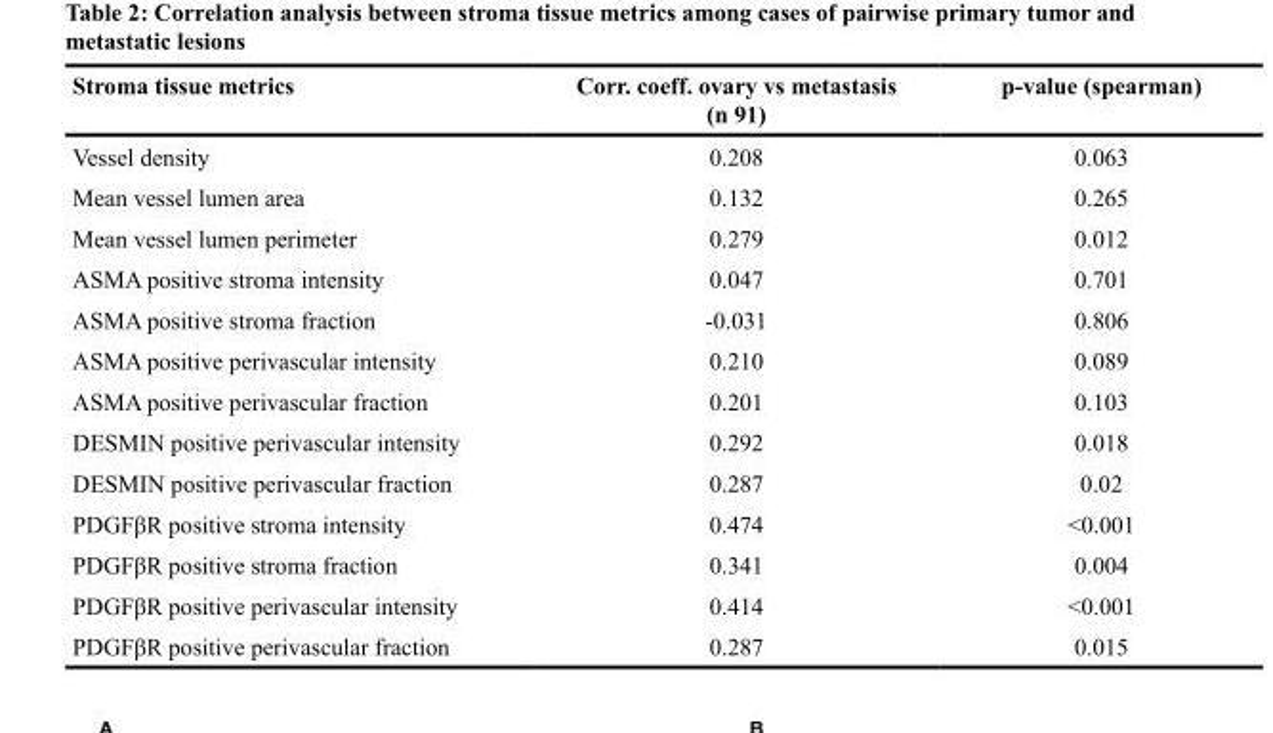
<table><thead><tr><td>Stroma tissue metrics</td><td>Corr. coeff. ovary vs metastasis (n 91)</td><td>p-value (spearman)</td></tr></thead><tbody><tr><td>Vessel density</td><td>0.208</td><td>0.063</td></tr><tr><td>Mean vessel lumen area</td><td>0.132</td><td>0.265</td></tr><tr><td>Mean vessel lumen perimeter</td><td>0.279</td><td>0.012</td></tr><tr><td>ASMA positive stroma intensity</td><td>0.047</td><td>0.701</td></tr><tr><td>ASMA positive stroma fraction</td><td>-0.031</td><td>0.806</td></tr><tr><td>ASMA positive perivascular intensity</td><td>0.210</td><td>0.089</td></tr><tr><td>ASMA positive perivascular fraction</td><td>0.201</td><td>0.103</td></tr><tr><td>DESMIN positive perivascular intensity</td><td>0.292</td><td>0.018</td></tr><tr><td>DESMIN positive perivascular fraction</td><td>0.287</td><td>0.02</td></tr><tr><td>PDGFβR positive stroma intensity</td><td>0.474</td><td>&lt;0.001</td></tr><tr><td>PDGFβR positive stroma fraction</td><td>0.341</td><td>0.004</td></tr><tr><td>PDGFβR positive perivascular intensity</td><td>0.414</td><td>&lt;0.001</td></tr><tr><td>PDGFβR positive perivascular fraction</td><td>0.287</td><td>0.015</td></tr></tbody></table>